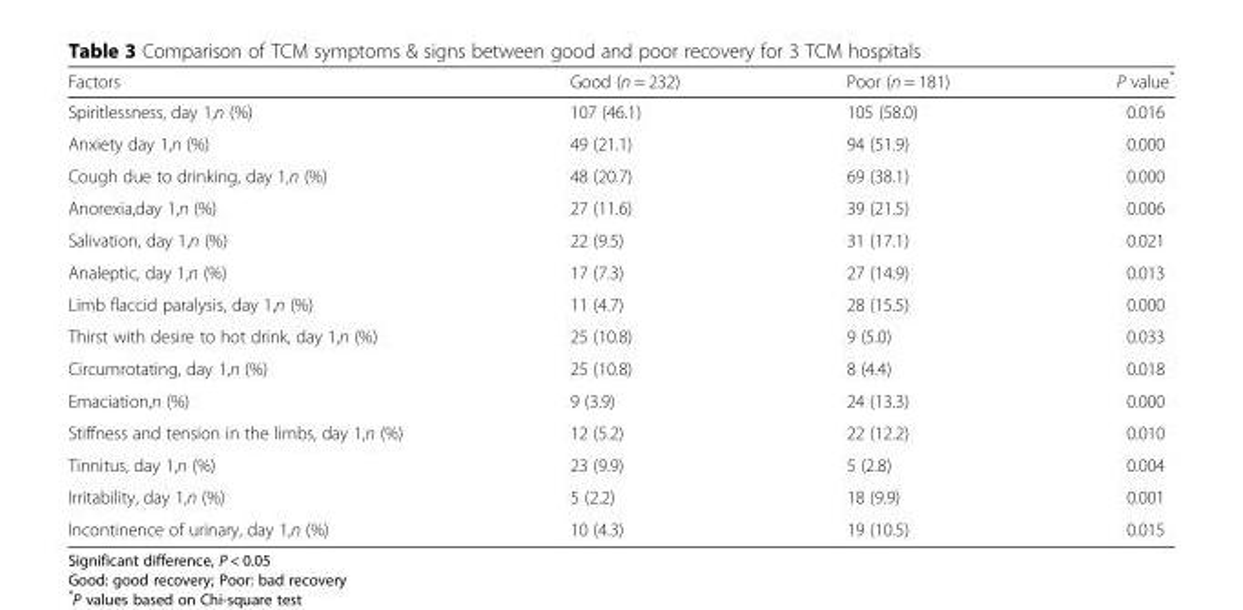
<table><thead><tr><td>Factors</td><td>Good (n = 232)</td><td>Poor (n = 181)</td><td>P value*</td></tr></thead><tbody><tr><td>Spiritlessness, day 1,n (%)</td><td>107 (46.1)</td><td>105 (58.0)</td><td>0.016</td></tr><tr><td>Anxiety day 1,n (%)</td><td>49 (21.1)</td><td>94 (51.9)</td><td>0.000</td></tr><tr><td>Cough due to drinking, day 1,n (%)</td><td>48 (20.7)</td><td>69 (38.1)</td><td>0.000</td></tr><tr><td>Anorexia,day 1,n (%)</td><td>27 (11.6)</td><td>39 (21.5)</td><td>0.006</td></tr><tr><td>Salivation, day 1,n (%)</td><td>22 (9.5)</td><td>31 (17.1)</td><td>0.021</td></tr><tr><td>Analeptic, day 1,n (%)</td><td>17 (7.3)</td><td>27 (14.9)</td><td>0.013</td></tr><tr><td>Limb flaccid paralysis, day 1,n (%)</td><td>11 (4.7)</td><td>28 (15.5)</td><td>0.000</td></tr><tr><td>Thirst with desire to hot drink, day 1,n (%)</td><td>25 (10.8)</td><td>9 (5.0)</td><td>0.033</td></tr><tr><td>Circumrotating, day 1,n (%)</td><td>25 (10.8)</td><td>8 (4.4)</td><td>0.018</td></tr><tr><td>Emaciation,n (%)</td><td>9 (3.9)</td><td>24 (13.3)</td><td>0.000</td></tr><tr><td>Stiffness and tension in the limbs, day 1,n (%)</td><td>12 (5.2)</td><td>22 (12.2)</td><td>0.010</td></tr><tr><td>Tinnitus, day 1,n (%)</td><td>23 (9.9)</td><td>5 (2.8)</td><td>0.004</td></tr><tr><td>Irritability, day 1,n (%)</td><td>5 (2.2)</td><td>18 (9.9)</td><td>0.001</td></tr><tr><td>Incontinence of urinary, day 1,n (%)</td><td>10 (4.3)</td><td>19 (10.5)</td><td>0.015</td></tr></tbody></table>